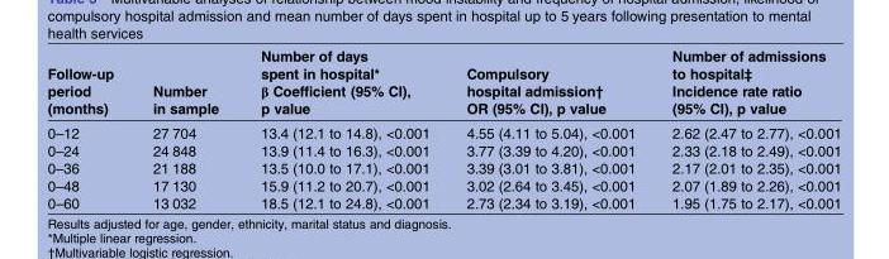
<table><thead><tr><td>Follow-up period (months)</td><td>Number in sample</td><td>Number of days spent in hospital* β Coefficient (95% CI), p value</td><td>Compulsory hospital admission† OR (95% CI), p value</td><td>Number of admissions to hospital‡ Incidence rate ratio (95% CI), p value</td></tr></thead><tbody><tr><td>0–12</td><td>27 704</td><td>13.4 (12.1 to 14.8), &lt;0.001</td><td>4.55 (4.11 to 5.04), &lt;0.001</td><td>2.62 (2.47 to 2.77), &lt;0.001</td></tr><tr><td>0–24</td><td>24 848</td><td>13.9 (11.4 to 16.3), &lt;0.001</td><td>3.77 (3.39 to 4.20), &lt;0.001</td><td>2.33 (2.18 to 2.49), &lt;0.001</td></tr><tr><td>0–36</td><td>21 188</td><td>13.5 (10.0 to 17.1), &lt;0.001</td><td>3.39 (3.01 to 3.81), &lt;0.001</td><td>2.17 (2.01 to 2.35), &lt;0.001</td></tr><tr><td>0–48</td><td>17 130</td><td>15.9 (11.2 to 20.7), &lt;0.001</td><td>3.02 (2.64 to 3.45), &lt;0.001</td><td>2.07 (1.89 to 2.26), &lt;0.001</td></tr><tr><td>0–60</td><td>13 032</td><td>18.5 (12.1 to 24.8), &lt;0.001</td><td>2.73 (2.34 to 3.19), &lt;0.001</td><td>1.95 (1.75 to 2.17), &lt;0.001</td></tr></tbody></table>